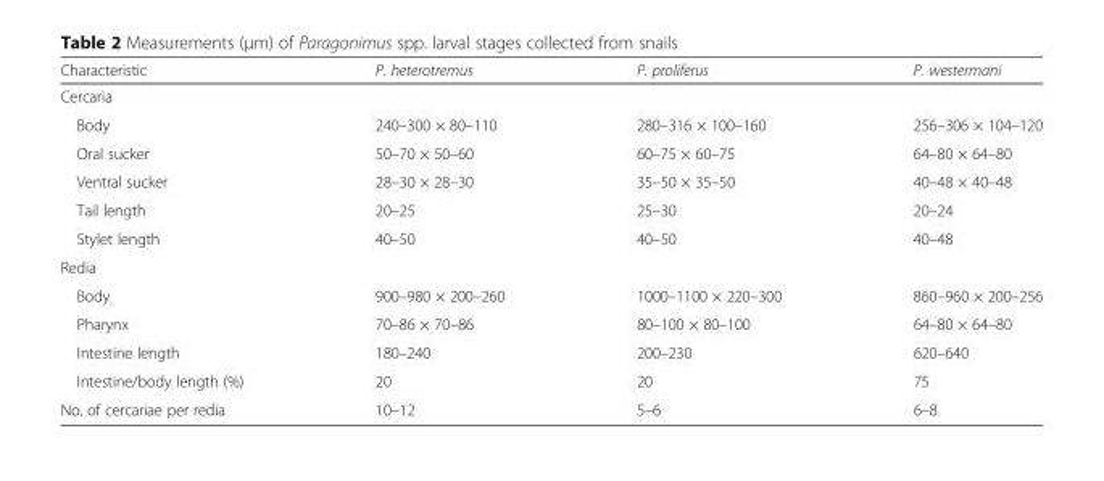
<table><thead><tr><td>Characteristic</td><td>P. heterotremus</td><td>P. proliferus</td><td>P. westermani</td></tr></thead><tbody><tr><td colspan="4">Cercaria</td></tr><tr><td>Body</td><td>240–300 × 80–110</td><td>280–316 × 100–160</td><td>256–306 × 104–120</td></tr><tr><td>Oral sucker</td><td>50–70 × 50–60</td><td>60–75 × 60–75</td><td>64–80 × 64–80</td></tr><tr><td>Ventral sucker</td><td>28–30 × 28–30</td><td>35–50 × 35–50</td><td>40–48 × 40–48</td></tr><tr><td>Tail length</td><td>20–25</td><td>25–30</td><td>20–24</td></tr><tr><td>Stylet length</td><td>40–50</td><td>40–50</td><td>40–48</td></tr><tr><td colspan="4">Redia</td></tr><tr><td>Body</td><td>900–980 × 200–260</td><td>1000–1100 × 220–300</td><td>860–960 × 200–256</td></tr><tr><td>Pharynx</td><td>70–86 × 70–86</td><td>80–100 × 80–100</td><td>64–80 × 64–80</td></tr><tr><td>Intestine length</td><td>180–240</td><td>200–230</td><td>620–640</td></tr><tr><td>Intestine/body length (%)</td><td>20</td><td>20</td><td>75</td></tr><tr><td>No. of cercariae per redia</td><td>10–12</td><td>5–6</td><td>6–8</td></tr></tbody></table>